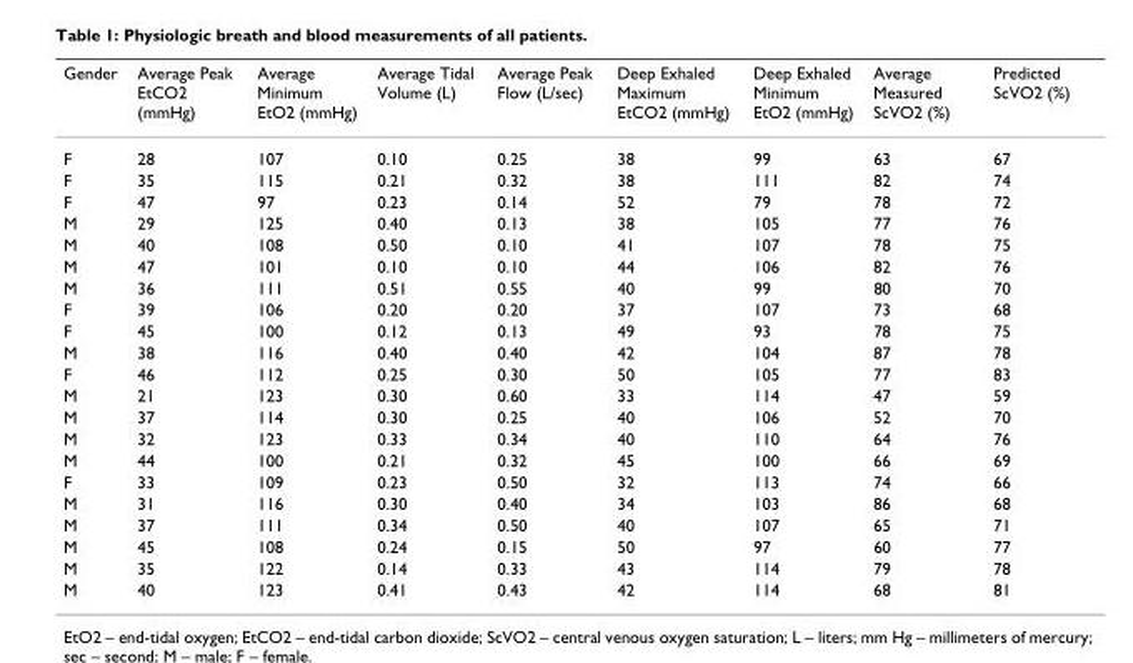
<table><thead><tr><td>Gender</td><td>Average Peak EtCO2 (mmHg)</td><td>Average Minimum EtO2 (mmHg)</td><td>Average Tidal Volume (L)</td><td>Average Peak Flow (L/sec)</td><td>Deep Exhaled Maximum EtCO2 (mmHg)</td><td>Deep Exhaled Minimum EtO2 (mmHg)</td><td>Average Measured ScVO2 (%)</td><td>Predicted ScVO2 (%)</td></tr></thead><tbody><tr><td>F</td><td>28</td><td>107</td><td>0.10</td><td>0.25</td><td>38</td><td>99</td><td>63</td><td>67</td></tr><tr><td>F</td><td>35</td><td>115</td><td>0.21</td><td>0.32</td><td>38</td><td>111</td><td>82</td><td>74</td></tr><tr><td>F</td><td>47</td><td>97</td><td>0.23</td><td>0.14</td><td>52</td><td>79</td><td>78</td><td>72</td></tr><tr><td>M</td><td>29</td><td>125</td><td>0.40</td><td>0.13</td><td>38</td><td>105</td><td>77</td><td>76</td></tr><tr><td>M</td><td>40</td><td>108</td><td>0.50</td><td>0.10</td><td>41</td><td>107</td><td>78</td><td>75</td></tr><tr><td>M</td><td>47</td><td>101</td><td>0.10</td><td>0.10</td><td>44</td><td>106</td><td>82</td><td>76</td></tr><tr><td>M</td><td>36</td><td>111</td><td>0.51</td><td>0.55</td><td>40</td><td>99</td><td>80</td><td>70</td></tr><tr><td>F</td><td>39</td><td>106</td><td>0.20</td><td>0.20</td><td>37</td><td>107</td><td>73</td><td>68</td></tr><tr><td>F</td><td>45</td><td>100</td><td>0.12</td><td>0.13</td><td>49</td><td>93</td><td>78</td><td>75</td></tr><tr><td>M</td><td>38</td><td>116</td><td>0.40</td><td>0.40</td><td>42</td><td>104</td><td>87</td><td>78</td></tr><tr><td>F</td><td>46</td><td>112</td><td>0.25</td><td>0.30</td><td>50</td><td>105</td><td>77</td><td>83</td></tr><tr><td>M</td><td>21</td><td>123</td><td>0.30</td><td>0.60</td><td>33</td><td>114</td><td>47</td><td>59</td></tr><tr><td>M</td><td>37</td><td>114</td><td>0.30</td><td>0.25</td><td>40</td><td>106</td><td>52</td><td>70</td></tr><tr><td>M</td><td>32</td><td>123</td><td>0.33</td><td>0.34</td><td>40</td><td>110</td><td>64</td><td>76</td></tr><tr><td>M</td><td>44</td><td>100</td><td>0.21</td><td>0.32</td><td>45</td><td>100</td><td>66</td><td>69</td></tr><tr><td>F</td><td>33</td><td>109</td><td>0.23</td><td>0.50</td><td>32</td><td>113</td><td>74</td><td>66</td></tr><tr><td>M</td><td>31</td><td>116</td><td>0.30</td><td>0.40</td><td>34</td><td>103</td><td>86</td><td>68</td></tr><tr><td>M</td><td>37</td><td>111</td><td>0.34</td><td>0.50</td><td>40</td><td>107</td><td>65</td><td>71</td></tr><tr><td>M</td><td>45</td><td>108</td><td>0.24</td><td>0.15</td><td>50</td><td>97</td><td>60</td><td>77</td></tr><tr><td>M</td><td>35</td><td>122</td><td>0.14</td><td>0.33</td><td>43</td><td>114</td><td>79</td><td>78</td></tr><tr><td>M</td><td>40</td><td>123</td><td>0.41</td><td>0.43</td><td>42</td><td>114</td><td>68</td><td>81</td></tr></tbody></table>